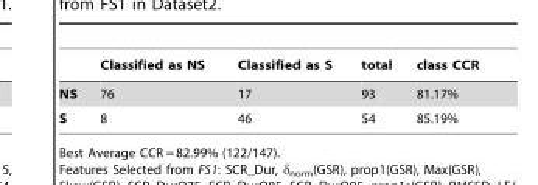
<table><thead><tr><td></td><td>Classified as NS</td><td>Classified as S</td><td>total</td><td>class CCR</td></tr></thead><tbody><tr><td>NS</td><td>76</td><td>17</td><td>93</td><td>81.17%</td></tr><tr><td>S</td><td>8</td><td>46</td><td>54</td><td>85.19%</td></tr></tbody></table>